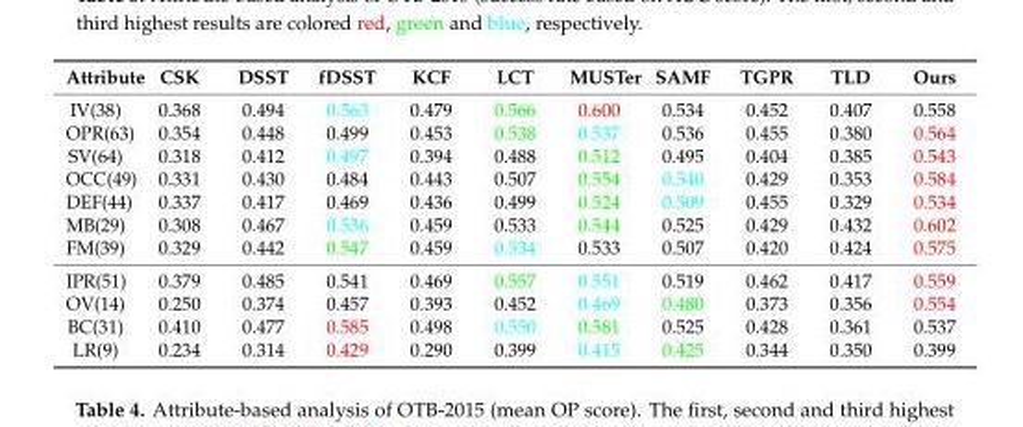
<table><thead><tr><td>Attribute</td><td>CSK</td><td>DSST</td><td>fDSST</td><td>KCF</td><td>LCT</td><td>MUSTer</td><td>SAMF</td><td>TGPR</td><td>TLD</td><td>Ours</td></tr></thead><tbody><tr><td>IV(38)</td><td>0.368</td><td>0.494</td><td>0.563</td><td>0.479</td><td>0.566</td><td>0.600</td><td>0.534</td><td>0.452</td><td>0.407</td><td>0.558</td></tr><tr><td>OPR(63)</td><td>0.354</td><td>0.448</td><td>0.499</td><td>0.453</td><td>0.538</td><td>0.537</td><td>0.536</td><td>0.455</td><td>0.380</td><td>0.564</td></tr><tr><td>SV(64)</td><td>0.318</td><td>0.412</td><td>0.497</td><td>0.394</td><td>0.488</td><td>0.512</td><td>0.495</td><td>0.404</td><td>0.385</td><td>0.543</td></tr><tr><td>OCC(49)</td><td>0.331</td><td>0.430</td><td>0.484</td><td>0.443</td><td>0.507</td><td>0.554</td><td>0.540</td><td>0.429</td><td>0.353</td><td>0.584</td></tr><tr><td>DEF(44)</td><td>0.337</td><td>0.417</td><td>0.469</td><td>0.436</td><td>0.499</td><td>0.524</td><td>0.509</td><td>0.455</td><td>0.329</td><td>0.534</td></tr><tr><td>MB(29)</td><td>0.308</td><td>0.467</td><td>0.536</td><td>0.459</td><td>0.533</td><td>0.544</td><td>0.525</td><td>0.429</td><td>0.432</td><td>0.602</td></tr><tr><td>FM(39)</td><td>0.329</td><td>0.442</td><td>0.547</td><td>0.459</td><td>0.534</td><td>0.533</td><td>0.507</td><td>0.420</td><td>0.424</td><td>0.575</td></tr><tr><td>IPR(51)</td><td>0.379</td><td>0.485</td><td>0.541</td><td>0.469</td><td>0.557</td><td>0.551</td><td>0.519</td><td>0.462</td><td>0.417</td><td>0.559</td></tr><tr><td>OV(14)</td><td>0.250</td><td>0.374</td><td>0.457</td><td>0.393</td><td>0.452</td><td>0.469</td><td>0.480</td><td>0.373</td><td>0.356</td><td>0.554</td></tr><tr><td>BC(31)</td><td>0.410</td><td>0.477</td><td>0.585</td><td>0.498</td><td>0.550</td><td>0.581</td><td>0.525</td><td>0.428</td><td>0.361</td><td>0.537</td></tr><tr><td>LR(9)</td><td>0.234</td><td>0.314</td><td>0.429</td><td>0.290</td><td>0.399</td><td>0.415</td><td>0.425</td><td>0.344</td><td>0.350</td><td>0.399</td></tr></tbody></table>